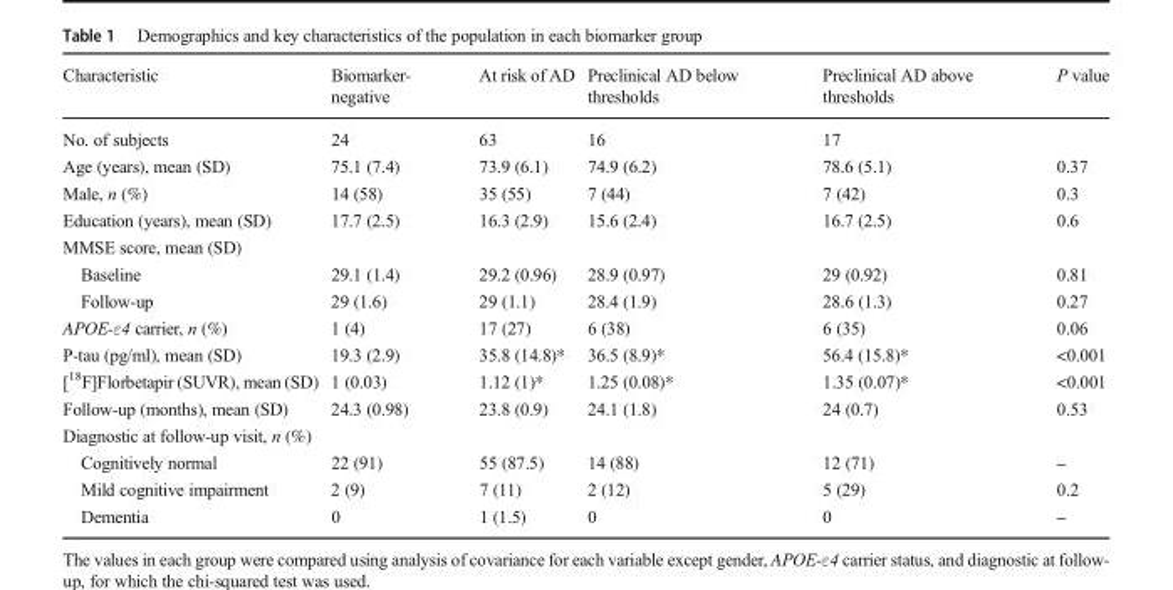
<table><thead><tr><td>Characteristic</td><td>Biomarker- negative</td><td>At risk of AD</td><td>Preclinical AD below thresholds</td><td>Preclinical AD above thresholds</td><td>P value</td></tr></thead><tbody><tr><td>No. of subjects</td><td>24</td><td>63</td><td>16</td><td>17</td><td></td></tr><tr><td>Age (years), mean (SD)</td><td>75.1 (7.4)</td><td>73.9 (6.1)</td><td>74.9 (6.2)</td><td>78.6 (5.1)</td><td>0.37</td></tr><tr><td>Male, n (%)</td><td>14 (58)</td><td>35 (55)</td><td>7 (44)</td><td>7 (42)</td><td>0.3</td></tr><tr><td>Education (years), mean (SD)</td><td>17.7 (2.5)</td><td>16.3 (2.9)</td><td>15.6 (2.4)</td><td>16.7 (2.5)</td><td>0.6</td></tr><tr><td colspan="6">MMSE score, mean (SD)</td></tr><tr><td>Baseline</td><td>29.1 (1.4)</td><td>29.2 (0.96)</td><td>28.9 (0.97)</td><td>29 (0.92)</td><td>0.81</td></tr><tr><td>Follow-up</td><td>29 (1.6)</td><td>29 (1.1)</td><td>28.4 (1.9)</td><td>28.6 (1.3)</td><td>0.27</td></tr><tr><td>APOE-ε4 carrier, n (%)</td><td>1 (4)</td><td>17 (27)</td><td>6 (38)</td><td>6 (35)</td><td>0.06</td></tr><tr><td>P-tau (pg/ml), mean (SD)</td><td>19.3 (2.9)</td><td>35.8 (14.8)*</td><td>36.5 (8.9)*</td><td>56.4 (15.8)*</td><td>&lt;0.001</td></tr><tr><td>[<sup>18</sup>F]Florbetapir (SUVR), mean (SD)</td><td>1 (0.03)</td><td>1.12 (1)*</td><td>1.25 (0.08)*</td><td>1.35 (0.07)*</td><td>&lt;0.001</td></tr><tr><td>Follow-up (months), mean (SD)</td><td>24.3 (0.98)</td><td>23.8 (0.9)</td><td>24.1 (1.8)</td><td>24 (0.7)</td><td>0.53</td></tr><tr><td colspan="6">Diagnostic at follow-up visit, n (%)</td></tr><tr><td>Cognitively normal</td><td>22 (91)</td><td>55 (87.5)</td><td>14 (88)</td><td>12 (71)</td><td>–</td></tr><tr><td>Mild cognitive impairment</td><td>2 (9)</td><td>7 (11)</td><td>2 (12)</td><td>5 (29)</td><td>0.2</td></tr><tr><td>Dementia</td><td>0</td><td>1 (1.5)</td><td>0</td><td>0</td><td>–</td></tr></tbody></table>